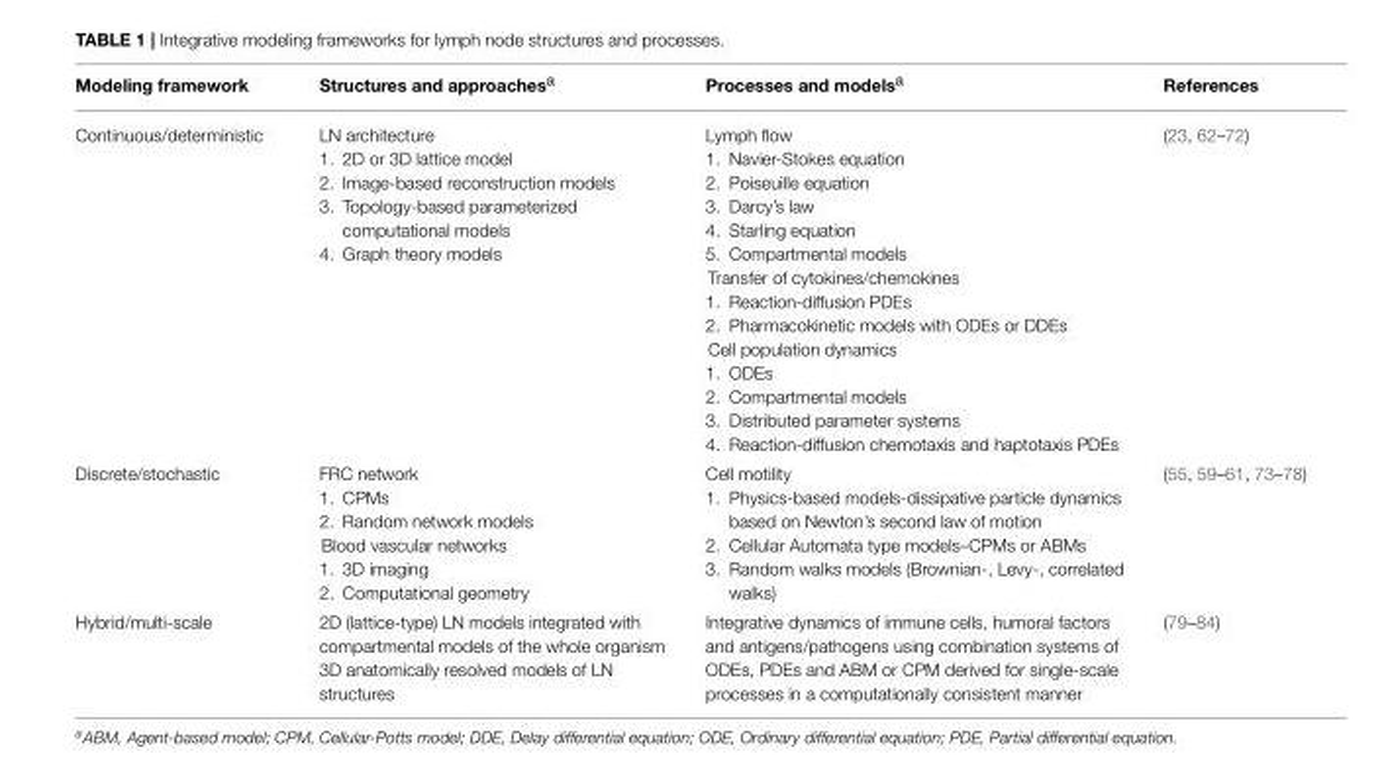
<table><thead><tr><td>Modeling framework</td><td>Structures and approaches<sup>a</sup></td><td>Processes and models<sup>a</sup></td><td>References</td></tr></thead><tbody><tr><td>Continuous/deterministic</td><td>LN architecture 1. 2D or 3D lattice model 2. Image-based reconstruction models 3. Topology-based parameterized computational models 4. Graph theory models</td><td>Lymph flow 1. Navier-Stokes equation 2. Poiseuille equation 3. Darcy’s law 4. Starling equation 5. Compartmental models Transfer of cytokines/chemokines 1. Reaction-diffusion PDEs 2. Pharmacokinetic models with ODEs or DDEs Cell population dynamics 1. ODEs 2. Compartmental models 3. Distributed parameter systems 4. Reaction-diffusion chemotaxis and haptotaxis PDEs</td><td>(23, 62–72)</td></tr><tr><td>Discrete/stochastic</td><td>FRC network 1. CPMs 2. Random network models Blood vascular networks 1. 3D imaging 2. Computational geometry</td><td>Cell motility 1. Physics-based models-dissipative particle dynamics based on Newton’s second law of motion 2. Cellular Automata type models–CPMs or ABMs 3. Random walks models (Brownian-, Levy-, correlated walks)</td><td>(55, 59–61, 73–78)</td></tr><tr><td>Hybrid/multi-scale</td><td>2D (lattice-type) LN models integrated with compartmental models of the whole organism 3D anatomically resolved models of LN structures</td><td>Integrative dynamics of immune cells, humoral factors and antigens/pathogens using combination systems of ODEs, PDEs and ABM or CPM derived for single-scale processes in a computationally consistent manner</td><td>(79–84)</td></tr></tbody></table>